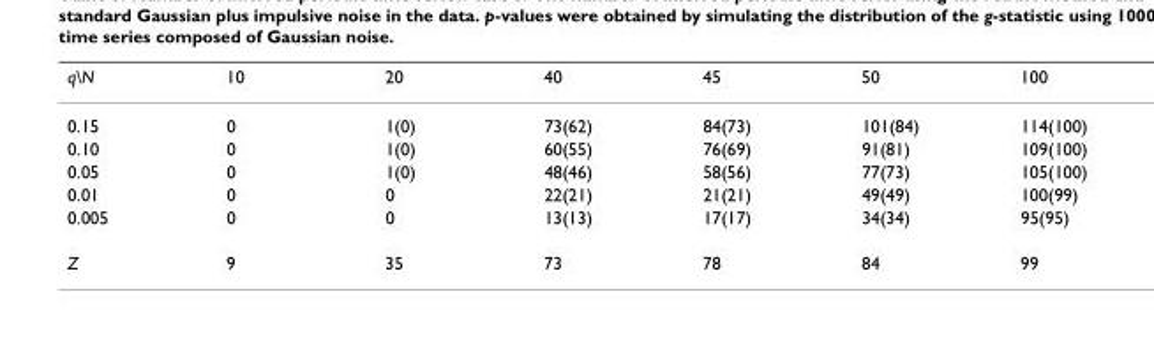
<table><thead><tr><td>q\N</td><td>10</td><td>20</td><td>40</td><td>45</td><td>50</td><td>100</td></tr></thead><tbody><tr><td>0.15</td><td>0</td><td>1(0)</td><td>73(62)</td><td>84(73)</td><td>101(84)</td><td>114(100)</td></tr><tr><td>0.10</td><td>0</td><td>1(0)</td><td>60(55)</td><td>76(69)</td><td>91(81)</td><td>109(100)</td></tr><tr><td>0.05</td><td>0</td><td>1(0)</td><td>48(46)</td><td>58(56)</td><td>77(73)</td><td>105(100)</td></tr><tr><td>0.01</td><td>0</td><td>0</td><td>22(21)</td><td>21(21)</td><td>49(49)</td><td>100(99)</td></tr><tr><td>0.005</td><td>0</td><td>0</td><td>13(13)</td><td>17(17)</td><td>34(34)</td><td>95(95)</td></tr><tr><td>Z</td><td>9</td><td>35</td><td>73</td><td>78</td><td>84</td><td>99</td></tr></tbody></table>